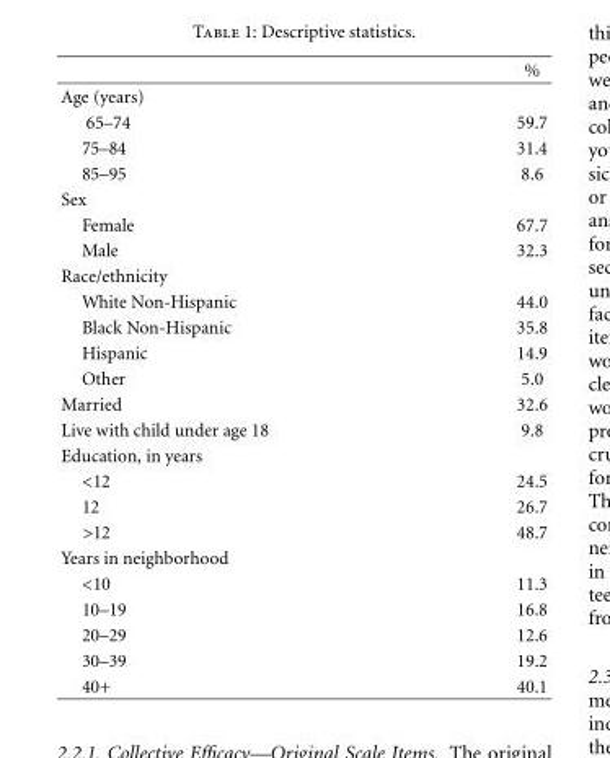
<table><thead><tr><td></td><td>%</td></tr></thead><tbody><tr><td colspan="2">Age (years)</td></tr><tr><td>65–74</td><td>59.7</td></tr><tr><td>75–84</td><td>31.4</td></tr><tr><td>85–95</td><td>8.6</td></tr><tr><td colspan="2">Sex</td></tr><tr><td>Female</td><td>67.7</td></tr><tr><td>Male</td><td>32.3</td></tr><tr><td colspan="2">Race/ethnicity</td></tr><tr><td>White Non-Hispanic</td><td>44.0</td></tr><tr><td>Black Non-Hispanic</td><td>35.8</td></tr><tr><td>Hispanic</td><td>14.9</td></tr><tr><td>Other</td><td>5.0</td></tr><tr><td>Married</td><td>32.6</td></tr><tr><td>Live with child under age 18</td><td>9.8</td></tr><tr><td colspan="2">Education, in years</td></tr><tr><td>&lt;12</td><td>24.5</td></tr><tr><td>12</td><td>26.7</td></tr><tr><td>&gt;12</td><td>48.7</td></tr><tr><td colspan="2">Years in neighborhood</td></tr><tr><td>&lt;10</td><td>11.3</td></tr><tr><td>10–19</td><td>16.8</td></tr><tr><td>20–29</td><td>12.6</td></tr><tr><td>30–39</td><td>19.2</td></tr><tr><td>40+</td><td>40.1</td></tr></tbody></table>